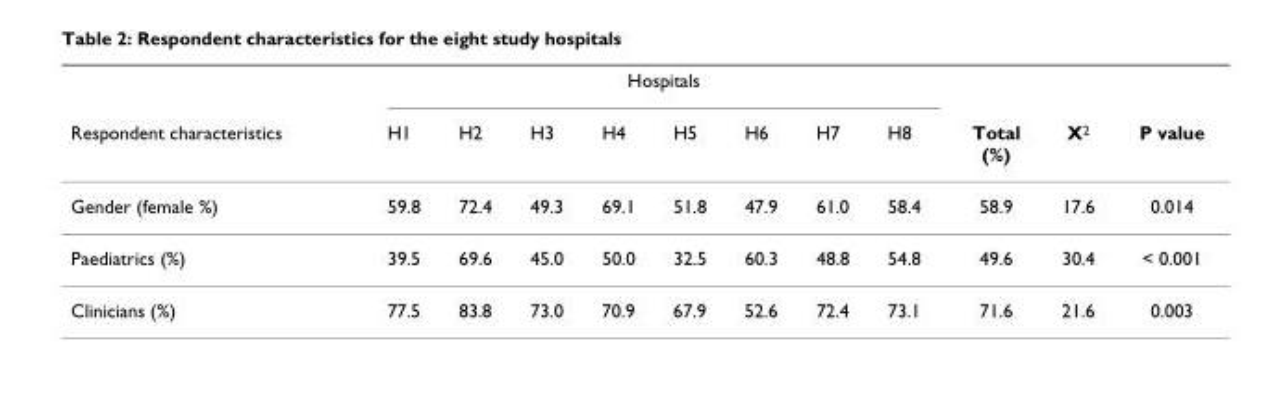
<table><thead><tr><td rowspan="2">Respondent characteristics</td><td colspan="8">Hospitals</td><td rowspan="2">Total (%)</td><td rowspan="2">X<sup>2</sup></td><td rowspan="2">P value</td></tr><tr><td>H1</td><td>H2</td><td>H3</td><td>H4</td><td>H5</td><td>H6</td><td>H7</td><td>H8</td></tr></thead><tbody><tr><td>Gender (female %)</td><td>59.8</td><td>72.4</td><td>49.3</td><td>69.1</td><td>51.8</td><td>47.9</td><td>61.0</td><td>58.4</td><td>58.9</td><td>17.6</td><td>0.014</td></tr><tr><td>Paediatrics (%)</td><td>39.5</td><td>69.6</td><td>45.0</td><td>50.0</td><td>32.5</td><td>60.3</td><td>48.8</td><td>54.8</td><td>49.6</td><td>30.4</td><td>&lt; 0.001</td></tr><tr><td>Clinicians (%)</td><td>77.5</td><td>83.8</td><td>73.0</td><td>70.9</td><td>67.9</td><td>52.6</td><td>72.4</td><td>73.1</td><td>71.6</td><td>21.6</td><td>0.003</td></tr></tbody></table>